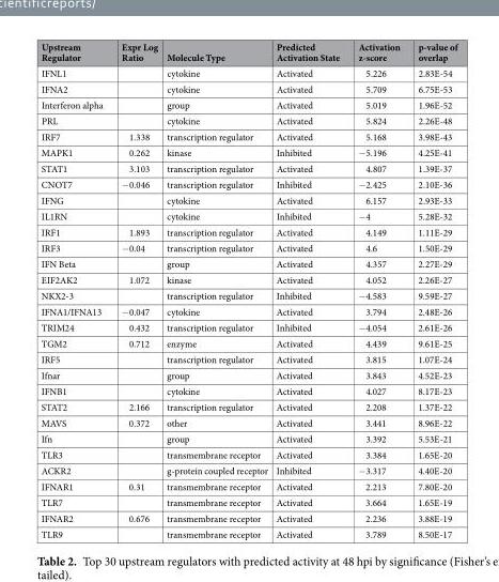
<table><thead><tr><td>Upstream Regulator</td><td>Expr Log Ratio</td><td>Molecule Type</td><td>Predicted Activation State</td><td>Activation z-score</td><td>p-value of overlap</td></tr></thead><tbody><tr><td>IFNL1</td><td></td><td>cytokine</td><td>Activated</td><td>5.226</td><td>2.83E-54</td></tr><tr><td>IFNA2</td><td></td><td>cytokine</td><td>Activated</td><td>5.709</td><td>6.75E-53</td></tr><tr><td>Interferon alpha</td><td></td><td>group</td><td>Activated</td><td>5.019</td><td>1.96E-52</td></tr><tr><td>PRL</td><td></td><td>cytokine</td><td>Activated</td><td>5.824</td><td>2.26E-48</td></tr><tr><td>IRF7</td><td>1.338</td><td>transcription regulator</td><td>Activated</td><td>5.168</td><td>3.98E-43</td></tr><tr><td>MAPK1</td><td>0.262</td><td>kinase</td><td>Inhibited</td><td>−5.196</td><td>4.25E-41</td></tr><tr><td>STAT1</td><td>3.103</td><td>transcription regulator</td><td>Activated</td><td>4.807</td><td>1.39E-37</td></tr><tr><td>CNOT7</td><td>−0.046</td><td>transcription regulator</td><td>Inhibited</td><td>−2.425</td><td>2.10E-36</td></tr><tr><td>IFNG</td><td></td><td>cytokine</td><td>Activated</td><td>6.157</td><td>2.93E-33</td></tr><tr><td>IL1RN</td><td></td><td>cytokine</td><td>Inhibited</td><td>−4</td><td>5.28E-32</td></tr><tr><td>IRF1</td><td>1.893</td><td>transcription regulator</td><td>Activated</td><td>4.149</td><td>1.11E-29</td></tr><tr><td>IRF3</td><td>−0.04</td><td>transcription regulator</td><td>Activated</td><td>4.6</td><td>1.50E-29</td></tr><tr><td>IFN Beta</td><td></td><td>group</td><td>Activated</td><td>4.357</td><td>2.27E-29</td></tr><tr><td>EIF2AK2</td><td>1.072</td><td>kinase</td><td>Activated</td><td>4.052</td><td>2.26E-27</td></tr><tr><td>NKX2-3</td><td></td><td>transcription regulator</td><td>Inhibited</td><td>−4.583</td><td>9.59E-27</td></tr><tr><td>IFNA1/IFNA13</td><td>−0.047</td><td>cytokine</td><td>Activated</td><td>3.794</td><td>2.48E-26</td></tr><tr><td>TRIM24</td><td>0.432</td><td>transcription regulator</td><td>Inhibited</td><td>−4.054</td><td>2.61E-26</td></tr><tr><td>TGM2</td><td>0.712</td><td>enzyme</td><td>Activated</td><td>4.439</td><td>9.61E-25</td></tr><tr><td>IRF5</td><td></td><td>transcription regulator</td><td>Activated</td><td>3.815</td><td>1.07E-24</td></tr><tr><td>Ifnar</td><td></td><td>group</td><td>Activated</td><td>3.843</td><td>4.52E-23</td></tr><tr><td>IFNB1</td><td></td><td>cytokine</td><td>Activated</td><td>4.027</td><td>8.17E-23</td></tr><tr><td>STAT2</td><td>2.166</td><td>transcription regulator</td><td>Activated</td><td>2.208</td><td>1.37E-22</td></tr><tr><td>MAVS</td><td>0.372</td><td>other</td><td>Activated</td><td>3.441</td><td>8.96E-22</td></tr><tr><td>Ifn</td><td></td><td>group</td><td>Activated</td><td>3.392</td><td>5.53E-21</td></tr><tr><td>TLR3</td><td></td><td>transmembrane receptor</td><td>Activated</td><td>3.384</td><td>1.65E-20</td></tr><tr><td>ACKR2</td><td></td><td>g-protein coupled receptor</td><td>Inhibited</td><td>−3.317</td><td>4.40E-20</td></tr><tr><td>IFNAR1</td><td>0.31</td><td>transmembrane receptor</td><td>Activated</td><td>2.213</td><td>7.80E-20</td></tr><tr><td>TLR7</td><td></td><td>transmembrane receptor</td><td>Activated</td><td>3.664</td><td>1.65E-19</td></tr><tr><td>IFNAR2</td><td>0.676</td><td>transmembrane receptor</td><td>Activated</td><td>2.236</td><td>3.88E-19</td></tr><tr><td>TLR9</td><td></td><td>transmembrane receptor</td><td>Activated</td><td>3.789</td><td>8.50E-17</td></tr></tbody></table>